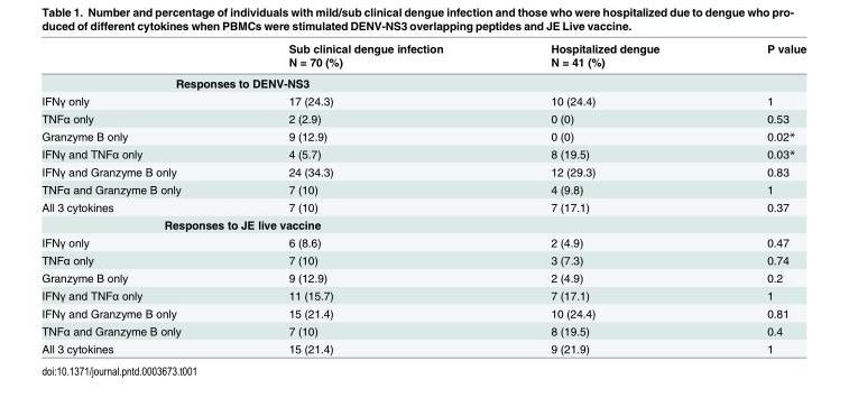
<table><thead><tr><td rowspan="2"></td><td rowspan="2">Sub clinical dengue infection N = 70 (%)</td><td rowspan="2">Hospitalized dengue N = 41 (%)</td><td rowspan="2">P value</td></tr><tr></tr></thead><tbody><tr><td colspan="4">Responses to DENV-NS3</td></tr><tr><td>IFNγ only</td><td>17 (24.3)</td><td>10 (24.4)</td><td>1</td></tr><tr><td>TNFα only</td><td>2 (2.9)</td><td>0 (0)</td><td>0.53</td></tr><tr><td>Granzyme B only</td><td>9 (12.9)</td><td>0 (0)</td><td>0.02*</td></tr><tr><td>IFNγ and TNFα only</td><td>4 (5.7)</td><td>8 (19.5)</td><td>0.03*</td></tr><tr><td>IFNγ and Granzyme B only</td><td>24 (34.3)</td><td>12 (29.3)</td><td>0.83</td></tr><tr><td>TNFα and Granzyme B only</td><td>7 (10)</td><td>4 (9.8)</td><td>1</td></tr><tr><td>All 3 cytokines</td><td>7 (10)</td><td>7 (17.1)</td><td>0.37</td></tr><tr><td colspan="4">Responses to JE live vaccine</td></tr><tr><td>IFNγ only</td><td>6 (8.6)</td><td>2 (4.9)</td><td>0.47</td></tr><tr><td>TNFα only</td><td>7 (10)</td><td>3 (7.3)</td><td>0.74</td></tr><tr><td>Granzyme B only</td><td>9 (12.9)</td><td>2 (4.9)</td><td>0.2</td></tr><tr><td>IFNγ and TNFα only</td><td>11 (15.7)</td><td>7 (17.1)</td><td>1</td></tr><tr><td>IFNγ and Granzyme B only</td><td>15 (21.4)</td><td>10 (24.4)</td><td>0.81</td></tr><tr><td>TNFα and Granzyme B only</td><td>7 (10)</td><td>8 (19.5)</td><td>0.4</td></tr><tr><td>All 3 cytokines</td><td>15 (21.4)</td><td>9 (21.9)</td><td>1</td></tr></tbody></table>